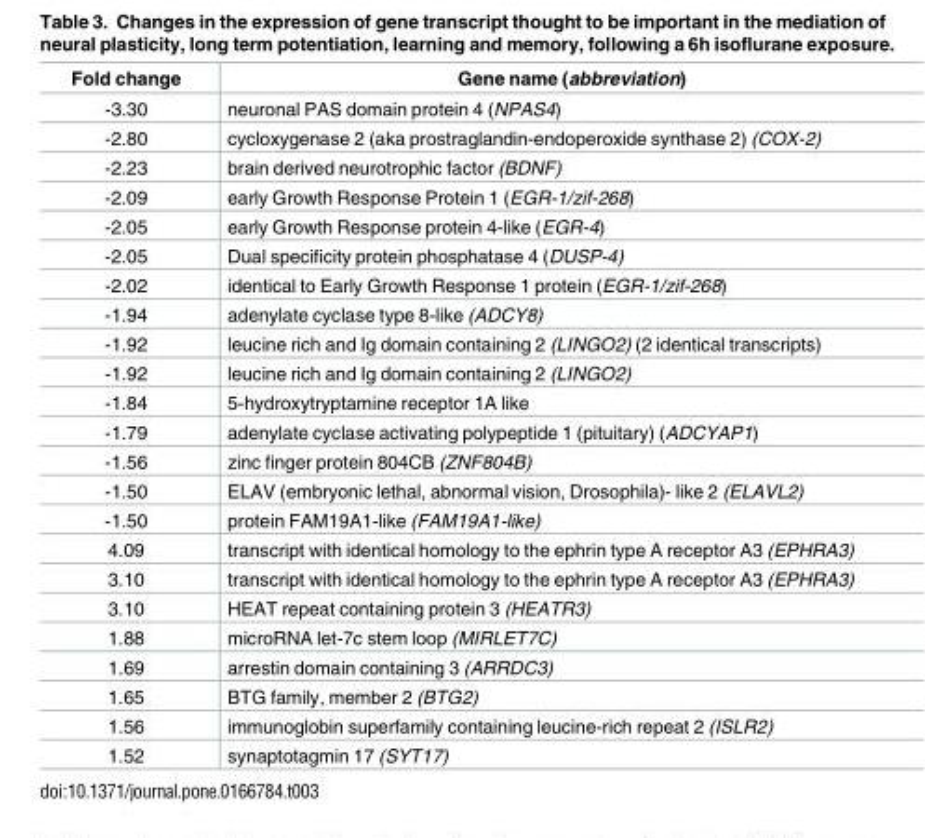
<table><thead><tr><td>Fold change</td><td>Gene name (abbreviation)</td></tr></thead><tbody><tr><td>-3.30</td><td>neuronal PAS domain protein 4 (NPAS4)</td></tr><tr><td>-2.80</td><td>cycloxygenase 2 (aka prostraglandin-endoperoxide synthase 2) (COX-2)</td></tr><tr><td>-2.23</td><td>brain derived neurotrophic factor (BDNF)</td></tr><tr><td>-2.09</td><td>early Growth Response Protein 1 (EGR-1/zif-268)</td></tr><tr><td>-2.05</td><td>early Growth Response protein 4-like (EGR-4)</td></tr><tr><td>-2.05</td><td>Dual specificity protein phosphatase 4 (DUSP-4)</td></tr><tr><td>-2.02</td><td>identical to Early Growth Response 1 protein (EGR-1/zif-268)</td></tr><tr><td>-1.94</td><td>adenylate cyclase type 8-like (ADCY8)</td></tr><tr><td>-1.92</td><td>leucine rich and Ig domain containing 2 (LINGO2) (2 identical transcripts)</td></tr><tr><td>-1.92</td><td>leucine rich and Ig domain containing 2 (LINGO2)</td></tr><tr><td>-1.84</td><td>5-hydroxytryptamine receptor 1A like</td></tr><tr><td>-1.79</td><td>adenylate cyclase activating polypeptide 1 (pituitary) (ADCYAP1)</td></tr><tr><td>-1.56</td><td>zinc finger protein 804CB (ZNF804B)</td></tr><tr><td>-1.50</td><td>ELAV (embryonic lethal, abnormal vision, Drosophila)- like 2 (ELAVL2)</td></tr><tr><td>-1.50</td><td>protein FAM19A1-like (FAM19A1-like)</td></tr><tr><td>4.09</td><td>transcript with identical homology to the ephrin type A receptor A3 (EPHRA3)</td></tr><tr><td>3.10</td><td>transcript with identical homology to the ephrin type A receptor A3 (EPHRA3)</td></tr><tr><td>3.10</td><td>HEAT repeat containing protein 3 (HEATR3)</td></tr><tr><td>1.88</td><td>microRNA let-7c stem loop (MIRLET7C)</td></tr><tr><td>1.69</td><td>arrestin domain containing 3 (ARRDC3)</td></tr><tr><td>1.65</td><td>BTG family, member 2 (BTG2)</td></tr><tr><td>1.56</td><td>immunoglobin superfamily containing leucine-rich repeat 2 (ISLR2)</td></tr><tr><td>1.52</td><td>synaptotagmin 17 (SYT17)</td></tr></tbody></table>